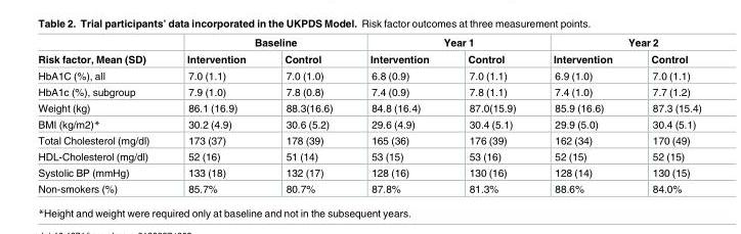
<table><thead><tr><td rowspan="2">Risk factor, Mean (SD)</td><td colspan="2">Baseline</td><td colspan="2">Year 1</td><td colspan="2">Year 2</td></tr><tr><td>Intervention</td><td>Control</td><td>Intervention</td><td>Control</td><td>Intervention</td><td>Control</td></tr></thead><tbody><tr><td>HbA1C (%), all</td><td>7.0 (1.1)</td><td>7.0 (1.0)</td><td>6.8 (0.9)</td><td>7.0 (1.1)</td><td>6.9 (1.0)</td><td>7.0 (1.1)</td></tr><tr><td>HbA1c (%), subgroup</td><td>7.9 (1.0)</td><td>7.8 (0.8)</td><td>7.4 (0.9)</td><td>7.8 (1.1)</td><td>7.4 (1.0)</td><td>7.7 (1.2)</td></tr><tr><td>Weight (kg)</td><td>86.1 (16.9)</td><td>88.3(16.6)</td><td>84.8 (16.4)</td><td>87.0(15.9)</td><td>85.9 (16.6)</td><td>87.3 (15.4)</td></tr><tr><td>BMI (kg/m2)*</td><td>30.2 (4.9)</td><td>30.6 (5.2)</td><td>29.6 (4.9)</td><td>30.4 (5.1)</td><td>29.9 (5.0)</td><td>30.4 (5.1)</td></tr><tr><td>Total Cholesterol (mg/dl)</td><td>173 (37)</td><td>178 (39)</td><td>165 (36)</td><td>176 (39)</td><td>162 (34)</td><td>170 (49)</td></tr><tr><td>HDL-Cholesterol (mg/dl)</td><td>52 (16)</td><td>51 (14)</td><td>53 (15)</td><td>53 (16)</td><td>52 (15)</td><td>52 (15)</td></tr><tr><td>Systolic BP (mmHg)</td><td>133 (18)</td><td>132 (17)</td><td>128 (16)</td><td>130 (16)</td><td>128 (14)</td><td>130 (15)</td></tr><tr><td>Non-smokers (%)</td><td>85.7%</td><td>80.7%</td><td>87.8%</td><td>81.3%</td><td>88.6%</td><td>84.0%</td></tr></tbody></table>